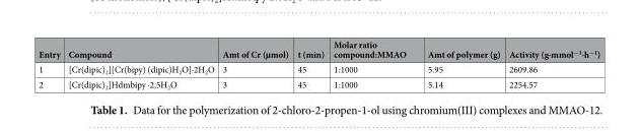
<table><thead><tr><td>Entry</td><td>Compound</td><td>Amt of Cr (µmol)</td><td>t (min)</td><td>Molar ratio compound:MMAO</td><td>Amt of polymer (g)</td><td>Activity (g∙mmol<sup>−1</sup>∙h<sup>−1</sup>)</td></tr></thead><tbody><tr><td>1</td><td>[Cr(dipic)<sub>2</sub>][Cr(bipy) (dipic)H<sub>2</sub>O]∙2H<sub>2</sub>O</td><td>3</td><td>45</td><td>1:1000</td><td>5.95</td><td>2609.86</td></tr><tr><td>2</td><td>[Cr(dipic)<sub>2</sub>]Hdmbipy ∙2,5H<sub>2</sub>O</td><td>3</td><td>45</td><td>1:1000</td><td>5.14</td><td>2254.57</td></tr></tbody></table>